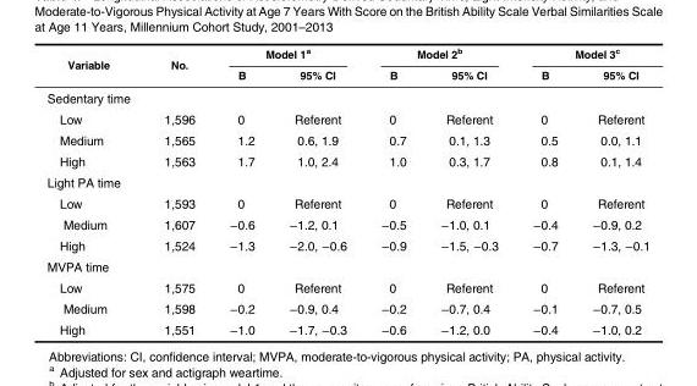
<table><thead><tr><td rowspan="2">Variable</td><td rowspan="2">No.</td><td colspan="2">Model 1<sup>a</sup></td><td colspan="2">Model 2<sup>b</sup></td><td colspan="2">Model 3<sup>c</sup></td></tr><tr><td>B</td><td>95% CI</td><td>B</td><td>95% CI</td><td>B</td><td>95% CI</td></tr></thead><tbody><tr><td colspan="8">Sedentary time</td></tr><tr><td>Low</td><td>1,596</td><td>0</td><td>Referent</td><td>0</td><td>Referent</td><td>0</td><td>Referent</td></tr><tr><td>Medium</td><td>1,565</td><td>1.2</td><td>0.6, 1.9</td><td>0.7</td><td>0.1, 1.3</td><td>0.5</td><td>0.0, 1.1</td></tr><tr><td>High</td><td>1,563</td><td>1.7</td><td>1.0, 2.4</td><td>1.0</td><td>0.3, 1.7</td><td>0.8</td><td>0.1, 1.4</td></tr><tr><td colspan="8">Light PA time</td></tr><tr><td>Low</td><td>1,593</td><td>0</td><td>Referent</td><td>0</td><td>Referent</td><td>0</td><td>Referent</td></tr><tr><td>Medium</td><td>1,607</td><td>−0.6</td><td>−1.2, 0.1</td><td>−0.5</td><td>−1.0, 0.1</td><td>−0.4</td><td>−0.9, 0.2</td></tr><tr><td>High</td><td>1,524</td><td>−1.3</td><td>−2.0, −0.6</td><td>−0.9</td><td>−1.5, −0.3</td><td>−0.7</td><td>−1.3, −0.1</td></tr><tr><td colspan="8">MVPA time</td></tr><tr><td>Low</td><td>1,575</td><td>0</td><td>Referent</td><td>0</td><td>Referent</td><td>0</td><td>Referent</td></tr><tr><td>Medium</td><td>1,598</td><td>−0.2</td><td>−0.9, 0.4</td><td>−0.2</td><td>−0.7, 0.4</td><td>−0.1</td><td>−0.7, 0.5</td></tr><tr><td>High</td><td>1,551</td><td>−1.0</td><td>−1.7, −0.3</td><td>−0.6</td><td>−1.2, 0.0</td><td>−0.4</td><td>−1.0, 0.2</td></tr></tbody></table>